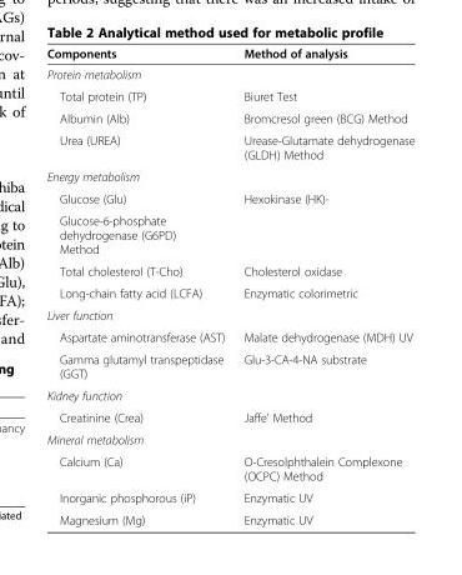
<table><thead><tr><td>Components</td><td>Method of analysis</td></tr></thead><tbody><tr><td colspan="2">Protein metabolism</td></tr><tr><td>Total protein (TP)</td><td>Biuret Test</td></tr><tr><td>Albumin (Alb)</td><td>Bromcresol green (BCG) Method</td></tr><tr><td>Urea (UREA)</td><td>Urease-Glutamate dehydrogenase (GLDH) Method</td></tr><tr><td colspan="2">Energy metabolism</td></tr><tr><td>Glucose (Glu)</td><td>Hexokinase (HK)-</td></tr><tr><td colspan="2">Glucose-6-phosphate dehydrogenase (G6PD) Method</td></tr><tr><td>Total cholesterol (T-Cho)</td><td>Cholesterol oxidase</td></tr><tr><td>Long-chain fatty acid (LCFA)</td><td>Enzymatic colorimetric</td></tr><tr><td colspan="2">Liver function</td></tr><tr><td>Aspartate aminotransferase (AST)</td><td>Malate dehydrogenase (MDH) UV</td></tr><tr><td>Gamma glutamyl transpeptidase (GGT)</td><td>Glu-3-CA-4-NA substrate</td></tr><tr><td colspan="2">Kidney function</td></tr><tr><td>Creatinine (Crea)</td><td>Jaffe’ Method</td></tr><tr><td colspan="2">Mineral metabolism</td></tr><tr><td>Calcium (Ca)</td><td>O-Cresolphthalein Complexone (OCPC) Method</td></tr><tr><td>Inorganic phosphorous (iP)</td><td>Enzymatic UV</td></tr><tr><td>Magnesium (Mg)</td><td>Enzymatic UV</td></tr></tbody></table>